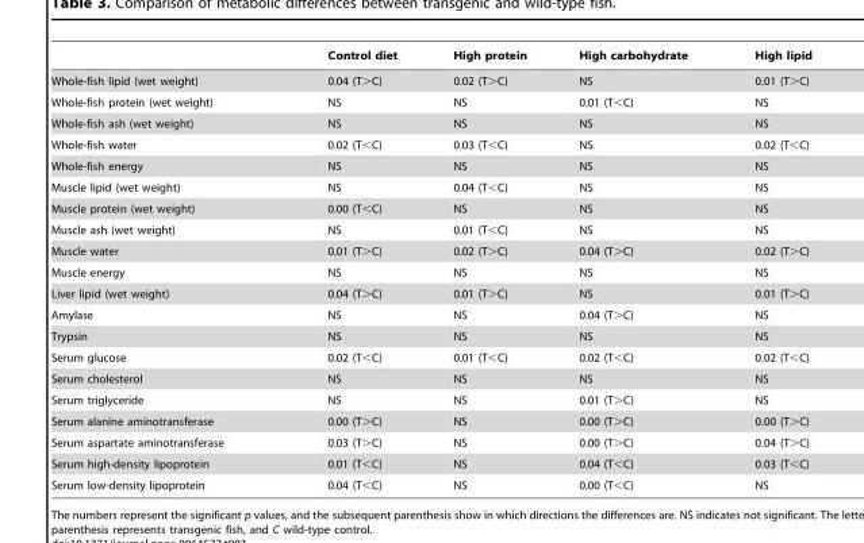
<table><thead><tr><td></td><td>Control diet</td><td>High protein</td><td>High carbohydrate</td><td>High lipid</td></tr></thead><tbody><tr><td>Whole-fish lipid (wet weight)</td><td>0.04 (T&gt;C)</td><td>0.02 (T&gt;C)</td><td>NS</td><td>0.01 (T&gt;C)</td></tr><tr><td>Whole-fish protein (wet weight)</td><td>NS</td><td>NS</td><td>0.01 (T&lt;C)</td><td>NS</td></tr><tr><td>Whole-fish ash (wet weight)</td><td>NS</td><td>NS</td><td>NS</td><td>NS</td></tr><tr><td>Whole-fish water</td><td>0.02 (T&lt;C)</td><td>0.03 (T&lt;C)</td><td>NS</td><td>0.02 (T&lt;C)</td></tr><tr><td>Whole-fish energy</td><td>NS</td><td>NS</td><td>NS</td><td>NS</td></tr><tr><td>Muscle lipid (wet weight)</td><td>NS</td><td>0.04 (T&lt;C)</td><td>NS</td><td>NS</td></tr><tr><td>Muscle protein (wet weight)</td><td>0.00 (T&lt;C)</td><td>NS</td><td>NS</td><td>NS</td></tr><tr><td>Muscle ash (wet weight)</td><td>NS</td><td>0.01 (T&lt;C)</td><td>NS</td><td>NS</td></tr><tr><td>Muscle water</td><td>0.01 (T&gt;C)</td><td>0.02 (T&gt;C)</td><td>0.04 (T&gt;C)</td><td>0.02 (T&gt;C)</td></tr><tr><td>Muscle energy</td><td>NS</td><td>NS</td><td>NS</td><td>NS</td></tr><tr><td>Liver lipid (wet weight)</td><td>0.04 (T&gt;C)</td><td>0.01 (T&gt;C)</td><td>NS</td><td>0.01 (T&gt;C)</td></tr><tr><td>Amylase</td><td>NS</td><td>NS</td><td>0.04 (T&gt;C)</td><td>NS</td></tr><tr><td>Trypsin</td><td>NS</td><td>NS</td><td>NS</td><td>NS</td></tr><tr><td>Serum glucose</td><td>0.02 (T&lt;C)</td><td>0.01 (T&lt;C)</td><td>0.02 (T&lt;C)</td><td>0.02 (T&lt;C)</td></tr><tr><td>Serum cholesterol</td><td>NS</td><td>NS</td><td>NS</td><td>NS</td></tr><tr><td>Serum triglyceride</td><td>NS</td><td>NS</td><td>0.01 (T&gt;C)</td><td>NS</td></tr><tr><td>Serum alanine aminotransferase</td><td>0.00 (T&gt;C)</td><td>NS</td><td>0.00 (T&gt;C)</td><td>0.00 (T&gt;C)</td></tr><tr><td>Serum aspartate aminotransferase</td><td>0.03 (T&gt;C)</td><td>NS</td><td>0.00 (T&gt;C)</td><td>0.04 (T&gt;C)</td></tr><tr><td>Serum high-density lipoprotein</td><td>0.01 (T&lt;C)</td><td>NS</td><td>0.04 (T&lt;C)</td><td>0.03 (T&lt;C)</td></tr><tr><td>Serum low-density lipoprotein</td><td>0.04 (T&lt;C)</td><td>NS</td><td>0.00 (T&lt;C)</td><td>NS</td></tr></tbody></table>